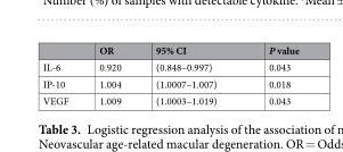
<table><thead><tr><td></td><td>OR</td><td>95% CI</td><td>P value</td></tr></thead><tbody><tr><td>IL-6</td><td>0.920</td><td>(0.848–0.997)</td><td>0.043</td></tr><tr><td>IP-10</td><td>1.004</td><td>(1.0007–1.007)</td><td>0.018</td></tr><tr><td>VEGF</td><td>1.009</td><td>(1.0003–1.019)</td><td>0.043</td></tr></tbody></table>